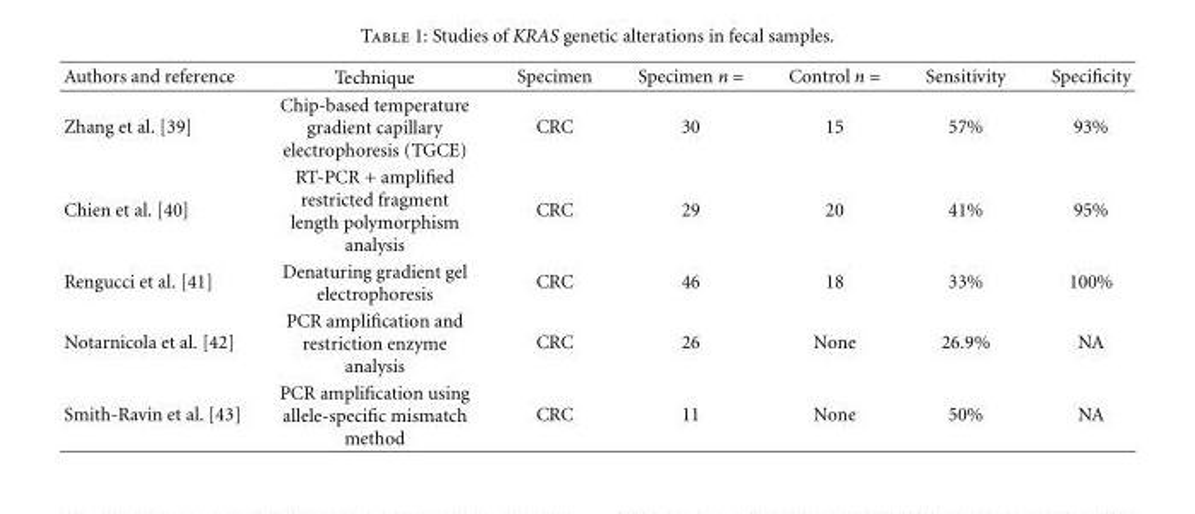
<table><thead><tr><td>Authors and reference</td><td>Technique</td><td>Specimen</td><td>Specimen n =</td><td>Control n =</td><td>Sensitivity</td><td>Specificity</td></tr></thead><tbody><tr><td>Zhang et al. [39]</td><td>Chip-based temperature gradient capillary electrophoresis (TGCE)</td><td>CRC</td><td>30</td><td>15</td><td>57%</td><td>93%</td></tr><tr><td>Chien et al. [40]</td><td>RT-PCR + amplified restricted fragment length polymorphism analysis</td><td>CRC</td><td>29</td><td>20</td><td>41%</td><td>95%</td></tr><tr><td>Rengucci et al. [41]</td><td>Denaturing gradient gel electrophoresis</td><td>CRC</td><td>46</td><td>18</td><td>33%</td><td>100%</td></tr><tr><td>Notarnicola et al. [42]</td><td>PCR amplification and restriction enzyme analysis</td><td>CRC</td><td>26</td><td>None</td><td>26.9%</td><td>NA</td></tr><tr><td>Smith-Ravin et al. [43]</td><td>PCR amplification using allele-specific mismatch method</td><td>CRC</td><td>11</td><td>None</td><td>50%</td><td>NA</td></tr></tbody></table>